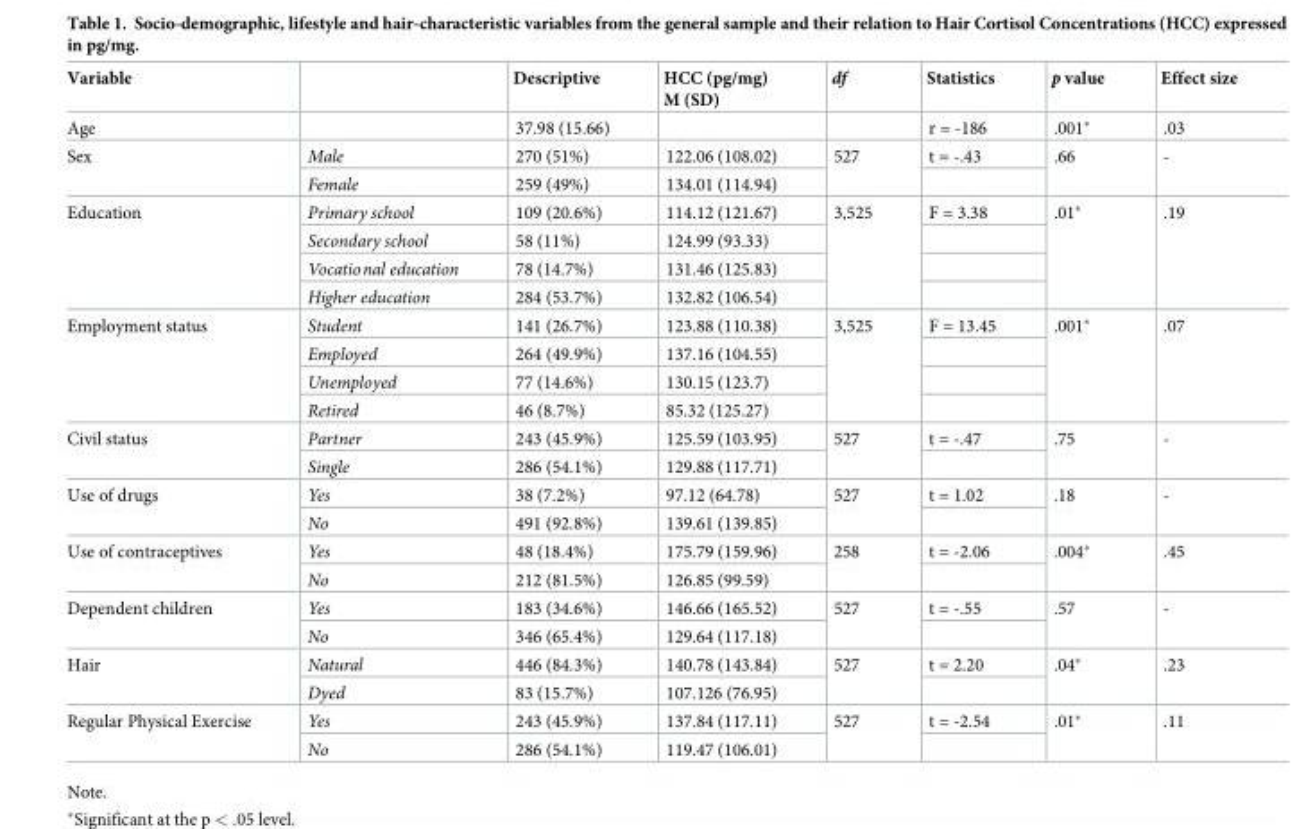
<table><thead><tr><td>Variable</td><td></td><td>Descriptive</td><td>HCC (pg/mg) M (SD)</td><td>df</td><td>Statistics</td><td>p value</td><td>Effect size</td></tr></thead><tbody><tr><td>Age</td><td></td><td>37.98 (15.66)</td><td></td><td></td><td>r = -186</td><td>.001*</td><td>.03</td></tr><tr><td rowspan="2">Sex</td><td>Male</td><td>270 (51%)</td><td>122.06 (108.02)</td><td rowspan="2">527</td><td>t = -.43</td><td rowspan="2">.66</td><td rowspan="2">-</td></tr><tr><td>Female</td><td>259 (49%)</td><td>134.01 (114.94)</td><td></td></tr><tr><td rowspan="4">Education</td><td>Primary school</td><td>109 (20.6%)</td><td>114.12 (121.67)</td><td rowspan="4">3,525</td><td>F = 3.38</td><td rowspan="4">.01*</td><td rowspan="4">.19</td></tr><tr><td>Secondary school</td><td>58 (11%)</td><td>124.99 (93.33)</td><td></td></tr><tr><td>Vocational education</td><td>78 (14.7%)</td><td>131.46 (125.83)</td><td></td></tr><tr><td>Higher education</td><td>284 (53.7%)</td><td>132.82 (106.54)</td><td></td></tr><tr><td rowspan="4">Employment status</td><td>Student</td><td>141 (26.7%)</td><td>123.88 (110.38)</td><td rowspan="4">3,525</td><td>F = 13.45</td><td rowspan="4">.001*</td><td rowspan="4">.07</td></tr><tr><td>Employed</td><td>264 (49.9%)</td><td>137.16 (104.55)</td><td></td></tr><tr><td>Unemployed</td><td>77 (14.6%)</td><td>130.15 (123.7)</td><td></td></tr><tr><td>Retired</td><td>46 (8.7%)</td><td>85.32 (125.27)</td><td></td></tr><tr><td rowspan="2">Civil status</td><td>Partner</td><td>243 (45.9%)</td><td>125.59 (103.95)</td><td rowspan="2">527</td><td>t = -.47</td><td rowspan="2">.75</td><td rowspan="2">-</td></tr><tr><td>Single</td><td>286 (54.1%)</td><td>129.88 (117.71)</td><td></td></tr><tr><td rowspan="2">Use of drugs</td><td>Yes</td><td>38 (7.2%)</td><td>97.12 (64.78)</td><td rowspan="2">527</td><td>t = 1.02</td><td rowspan="2">.18</td><td rowspan="2">-</td></tr><tr><td>No</td><td>491 (92.8%)</td><td>139.61 (139.85)</td><td></td></tr><tr><td rowspan="2">Use of contraceptives</td><td>Yes</td><td>48 (18.4%)</td><td>175.79 (159.96)</td><td rowspan="2">258</td><td>t = -2.06</td><td rowspan="2">.004*</td><td rowspan="2">.45</td></tr><tr><td>No</td><td>212 (81.5%)</td><td>126.85 (99.59)</td><td></td></tr><tr><td rowspan="2">Dependent children</td><td>Yes</td><td>183 (34.6%)</td><td>146.66 (165.52)</td><td rowspan="2">527</td><td>t = -.55</td><td rowspan="2">.57</td><td rowspan="2">-</td></tr><tr><td>No</td><td>346 (65.4%)</td><td>129.64 (117.18)</td><td></td></tr><tr><td rowspan="2">Hair</td><td>Natural</td><td>446 (84.3%)</td><td>140.78 (143.84)</td><td rowspan="2">527</td><td>t = 2.20</td><td rowspan="2">.04*</td><td rowspan="2">.23</td></tr><tr><td>Dyed</td><td>83 (15.7%)</td><td>107.126 (76.95)</td><td></td></tr><tr><td rowspan="2">Regular Physical Exercise</td><td>Yes</td><td>243 (45.9%)</td><td>137.84 (117.11)</td><td rowspan="2">527</td><td>t = -2.54</td><td rowspan="2">.01*</td><td rowspan="2">.11</td></tr><tr><td>No</td><td>286 (54.1%)</td><td>119.47 (106.01)</td><td></td></tr></tbody></table>